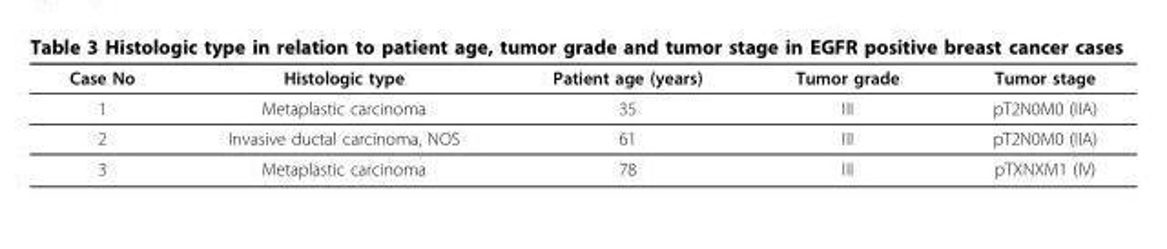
<table><thead><tr><td>Case No</td><td>Histologic type</td><td>Patient age (years)</td><td>Tumor grade</td><td>Tumor stage</td></tr></thead><tbody><tr><td>1</td><td>Metaplastic carcinoma</td><td>35</td><td>III</td><td>pT2N0M0 (IIA)</td></tr><tr><td>2</td><td>Invasive ductal carcinoma, NOS</td><td>61</td><td>III</td><td>pT2N0M0 (IIA)</td></tr><tr><td>3</td><td>Metaplastic carcinoma</td><td>78</td><td>III</td><td>pTXNXM1 (IV)</td></tr></tbody></table>